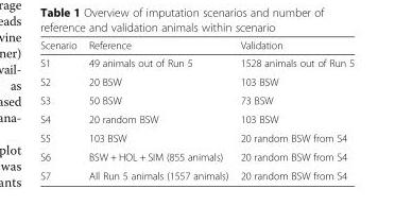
<table><thead><tr><td>Scenario</td><td>Reference</td><td>Validation</td></tr></thead><tbody><tr><td>S1</td><td>49 animals out of Run 5</td><td>1528 animals out of Run 5</td></tr><tr><td>S2</td><td>20 BSW</td><td>103 BSW</td></tr><tr><td>S3</td><td>50 BSW</td><td>73 BSW</td></tr><tr><td>S4</td><td>20 random BSW</td><td>103 BSW</td></tr><tr><td>S5</td><td>103 BSW</td><td>20 random BSW from S4</td></tr><tr><td>S6</td><td>BSW + HOL + SIM (855 animals)</td><td>20 random BSW from S4</td></tr><tr><td>S7</td><td>All Run 5 animals (1557 animals)</td><td>20 random BSW from S4</td></tr></tbody></table>